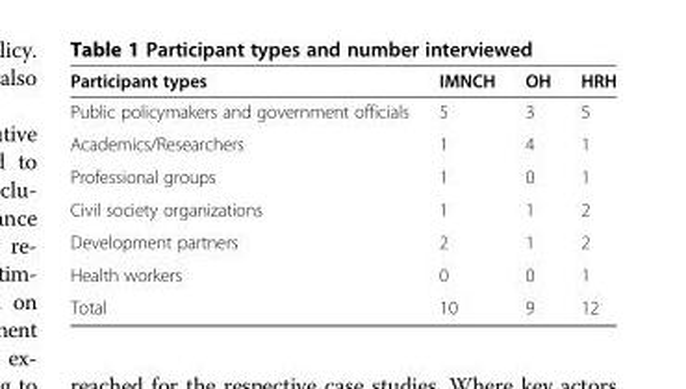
<table><thead><tr><td>Participant types</td><td>IMNCH</td><td>OH</td><td>HRH</td></tr></thead><tbody><tr><td>Public policymakers and government officials</td><td>5</td><td>3</td><td>5</td></tr><tr><td>Academics/Researchers</td><td>1</td><td>4</td><td>1</td></tr><tr><td>Professional groups</td><td>1</td><td>0</td><td>1</td></tr><tr><td>Civil society organizations</td><td>1</td><td>1</td><td>2</td></tr><tr><td>Development partners</td><td>2</td><td>1</td><td>2</td></tr><tr><td>Health workers</td><td>0</td><td>0</td><td>1</td></tr><tr><td>Total</td><td>10</td><td>9</td><td>12</td></tr></tbody></table>